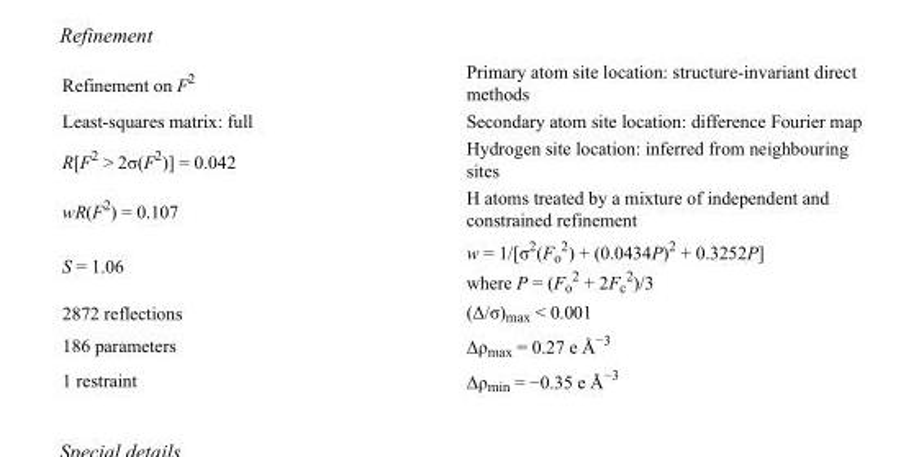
<table><tbody><tr><td>Refinement on F<sup>2</sup></td><td>Primary atom site location: structure-invariant direct methods</td></tr><tr><td>Least-squares matrix: full</td><td>Secondary atom site location: difference Fourier map</td></tr><tr><td>R[F<sup>2</sup> &gt; 2σ(F<sup>2</sup>)] = 0.042</td><td>Hydrogen site location: inferred from neighbouring sites</td></tr><tr><td>wR(F<sup>2</sup>) = 0.107</td><td>H atoms treated by a mixture of independent and constrained refinement</td></tr><tr><td>S = 1.06</td><td>w = 1/[σ<sup>2</sup>(F<sub>o</sub> <sup>2</sup>) + (0.0434P)<sup>2</sup> + 0.3252P] where P = (F<sub>o</sub> <sup>2</sup> + 2F<sub>c</sub> <sup>2</sup>)/3</td></tr><tr><td>2872 reflections</td><td>(Δ/σ)<sub>max</sub> &lt; 0.001</td></tr><tr><td>186 parameters</td><td>Δρ<sub>max</sub> = 0.27 e Å<sup>−3</sup></td></tr><tr><td>1 restraint</td><td>Δρ<sub>min</sub> = −0.35 e Å<sup>−3</sup></td></tr></tbody></table>